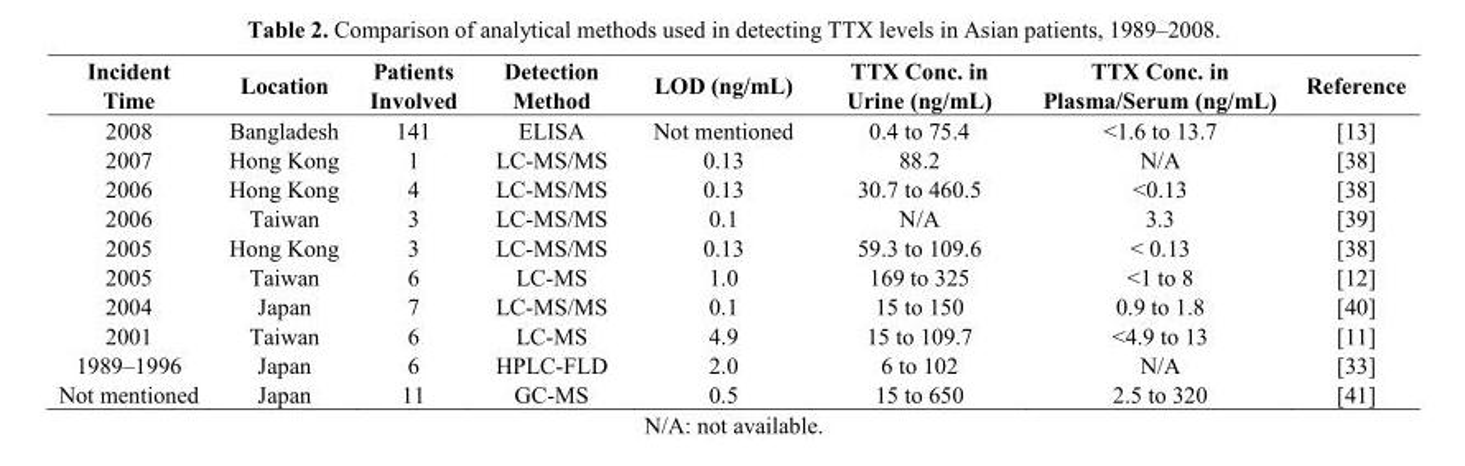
<table><thead><tr><td>Incident Time</td><td>Location</td><td>Patients Involved</td><td>Detection Method</td><td>LOD (ng/mL)</td><td>TTX Conc. in Urine (ng/mL)</td><td>TTX Conc. in Plasma/Serum (ng/mL)</td><td>Reference</td></tr></thead><tbody><tr><td>2008</td><td>Bangladesh</td><td>141</td><td>ELISA</td><td>Not mentioned</td><td>0.4 to 75.4</td><td>&lt;1.6 to 13.7</td><td>[13]</td></tr><tr><td>2007</td><td>Hong Kong</td><td>1</td><td>LC-MS/MS</td><td>0.13</td><td>88.2</td><td>N/A</td><td>[38]</td></tr><tr><td>2006</td><td>Hong Kong</td><td>4</td><td>LC-MS/MS</td><td>0.13</td><td>30.7 to 460.5</td><td>&lt;0.13</td><td>[38]</td></tr><tr><td>2006</td><td>Taiwan</td><td>3</td><td>LC-MS/MS</td><td>0.1</td><td>N/A</td><td>3.3</td><td>[39]</td></tr><tr><td>2005</td><td>Hong Kong</td><td>3</td><td>LC-MS/MS</td><td>0.13</td><td>59.3 to 109.6</td><td>&lt; 0.13</td><td>[38]</td></tr><tr><td>2005</td><td>Taiwan</td><td>6</td><td>LC-MS</td><td>1.0</td><td>169 to 325</td><td>&lt;1 to 8</td><td>[12]</td></tr><tr><td>2004</td><td>Japan</td><td>7</td><td>LC-MS/MS</td><td>0.1</td><td>15 to 150</td><td>0.9 to 1.8</td><td>[40]</td></tr><tr><td>2001</td><td>Taiwan</td><td>6</td><td>LC-MS</td><td>4.9</td><td>15 to 109.7</td><td>&lt;4.9 to 13</td><td>[11]</td></tr><tr><td>1989–1996</td><td>Japan</td><td>6</td><td>HPLC-FLD</td><td>2.0</td><td>6 to 102</td><td>N/A</td><td>[33]</td></tr><tr><td>Not mentioned</td><td>Japan</td><td>11</td><td>GC-MS</td><td>0.5</td><td>15 to 650</td><td>2.5 to 320</td><td>[41]</td></tr></tbody></table>